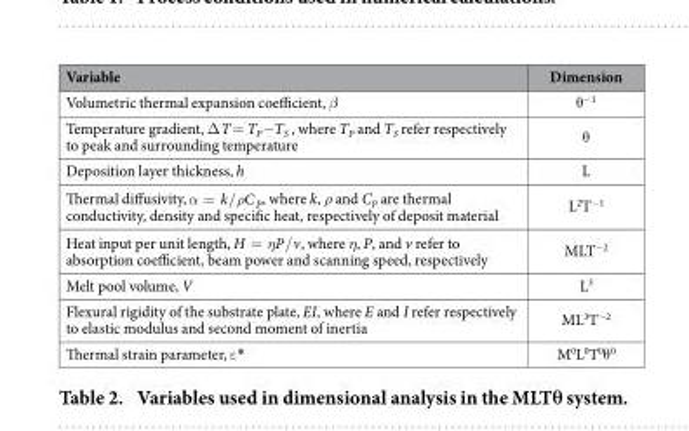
<table><thead><tr><td>Variable</td><td>Dimension</td></tr></thead><tbody><tr><td>Volumetric thermal expansion coefficient, β</td><td>θ <sup>−1</sup></td></tr><tr><td>Temperature gradient, Δ T = T<sub>P</sub>−T<sub>S</sub> , where T<sub>P</sub> and T<sub>S</sub> refer respectively to peak and surrounding temperature</td><td>θ</td></tr><tr><td>Deposition layer thickness, h</td><td>L</td></tr><tr><td>Thermal diffusivity, α ρ = / k C P, where k, ρ and CP are thermal conductivity, density and specific heat, respectively of deposit material</td><td>L<sup>2</sup>T<sup>−1</sup></td></tr><tr><td>Heat input per unit length, η = / H P v, where η, P, and v refer to absorption coefficient, beam power and scanning speed, respectively</td><td>MLT<sup>−2</sup></td></tr><tr><td>Melt pool volume, V</td><td>L<sup>3</sup></td></tr><tr><td>Flexural rigidity of the substrate plate, EI, where E and I refer respectively to elastic modulus and second moment of inertia</td><td>ML<sup>3</sup>T<sup>−2</sup></td></tr><tr><td>Thermal strain parameter, ε *</td><td>M<sup>0</sup>L<sup>0</sup>T<sup>0</sup>θ <sup>0</sup></td></tr></tbody></table>